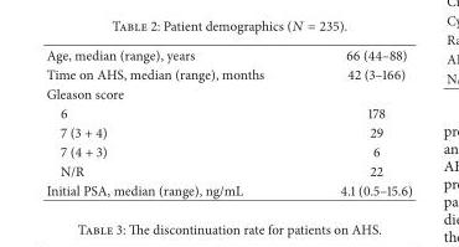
<table><tbody><tr><td>Age, median (range), years</td><td>66 (44–88)</td></tr><tr><td>Time on AHS, median (range), months</td><td>42 (3–166)</td></tr><tr><td colspan="2">Gleason score</td></tr><tr><td>6</td><td>178</td></tr><tr><td>7 (3 + 4)</td><td>29</td></tr><tr><td>7 (4 + 3)</td><td>6</td></tr><tr><td>N/R</td><td>22</td></tr><tr><td>Initial PSA, median (range), ng/mL</td><td>4.1 (0.5–15.6)</td></tr></tbody></table>